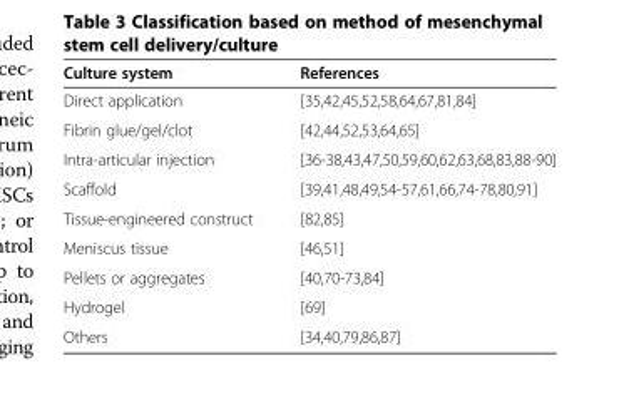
<table><thead><tr><td>Culture system</td><td>References</td></tr></thead><tbody><tr><td>Direct application</td><td>[35,42,45,52,58,64,67,81,84]</td></tr><tr><td>Fibrin glue/gel/clot</td><td>[42,44,52,53,64,65]</td></tr><tr><td>Intra-articular injection</td><td>[36-38,43,47,50,59,60,62,63,68,83,88-90]</td></tr><tr><td>Scaffold</td><td>[39,41,48,49,54-57,61,66,74-78,80,91]</td></tr><tr><td>Tissue-engineered construct</td><td>[82,85]</td></tr><tr><td>Meniscus tissue</td><td>[46,51]</td></tr><tr><td>Pellets or aggregates</td><td>[40,70-73,84]</td></tr><tr><td>Hydrogel</td><td>[69]</td></tr><tr><td>Others</td><td>[34,40,79,86,87]</td></tr></tbody></table>